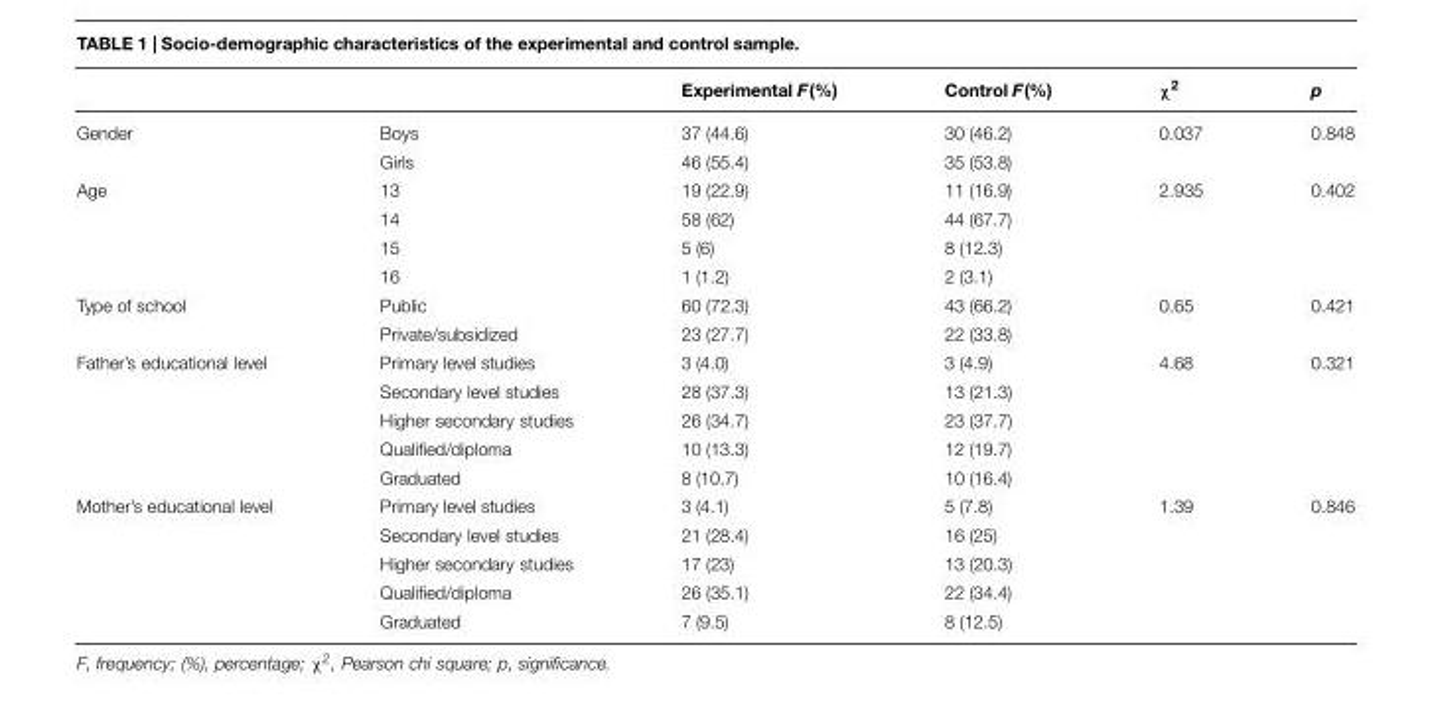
<table><thead><tr><td></td><td></td><td>Experimental F(%)</td><td>Control F(%)</td><td>χ<sup>2</sup></td><td>p</td></tr></thead><tbody><tr><td rowspan="2">Gender</td><td>Boys</td><td>37 (44.6)</td><td>30 (46.2)</td><td>0.037</td><td>0.848</td></tr><tr><td>Girls</td><td>46 (55.4)</td><td>35 (53.8)</td><td></td><td></td></tr><tr><td rowspan="4">Age</td><td>13</td><td>19 (22.9)</td><td>11 (16.9)</td><td>2.935</td><td>0.402</td></tr><tr><td>14</td><td>58 (62)</td><td>44 (67.7)</td><td></td><td></td></tr><tr><td>15</td><td>5 (6)</td><td>8 (12.3)</td><td></td><td></td></tr><tr><td>16</td><td>1 (1.2)</td><td>2 (3.1)</td><td></td><td></td></tr><tr><td rowspan="2">Type of school</td><td>Public</td><td>60 (72.3)</td><td>43 (66.2)</td><td>0.65</td><td>0.421</td></tr><tr><td>Private/subsidized</td><td>23 (27.7)</td><td>22 (33.8)</td><td></td><td></td></tr><tr><td rowspan="5">Father’s educational level</td><td>Primary level studies</td><td>3 (4.0)</td><td>3 (4.9)</td><td>4.68</td><td>0.321</td></tr><tr><td>Secondary level studies</td><td>28 (37.3)</td><td>13 (21.3)</td><td></td><td></td></tr><tr><td>Higher secondary studies</td><td>26 (34.7)</td><td>23 (37.7)</td><td></td><td></td></tr><tr><td>Qualified/diploma</td><td>10 (13.3)</td><td>12 (19.7)</td><td></td><td></td></tr><tr><td>Graduated</td><td>8 (10.7)</td><td>10 (16.4)</td><td></td><td></td></tr><tr><td rowspan="5">Mother’s educational level</td><td>Primary level studies</td><td>3 (4.1)</td><td>5 (7.8)</td><td>1.39</td><td>0.846</td></tr><tr><td>Secondary level studies</td><td>21 (28.4)</td><td>16 (25)</td><td></td><td></td></tr><tr><td>Higher secondary studies</td><td>17 (23)</td><td>13 (20.3)</td><td></td><td></td></tr><tr><td>Qualified/diploma</td><td>26 (35.1)</td><td>22 (34.4)</td><td></td><td></td></tr><tr><td>Graduated</td><td>7 (9.5)</td><td>8 (12.5)</td><td></td><td></td></tr></tbody></table>